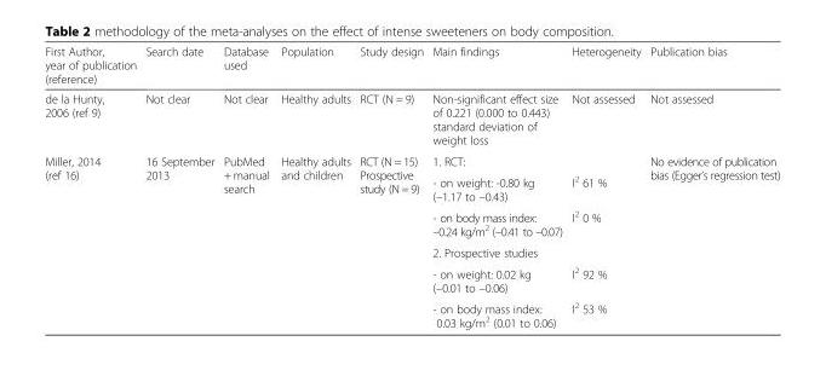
<table><thead><tr><td>First Author, year of publication (reference)</td><td>Search date</td><td>Database used</td><td>Population</td><td>Study design</td><td>Main findings</td><td>Heterogeneity</td><td>Publication bias</td></tr></thead><tbody><tr><td>de la Hunty, 2006 (ref 9)</td><td>Not clear</td><td>Not clear</td><td>Healthy adults</td><td>RCT (N = 9)</td><td>Non-significant effect size of 0.221 (0.000 to 0.443) standard deviation of weight loss</td><td>Not assessed</td><td>Not assessed</td></tr><tr><td rowspan="6">Miller, 2014 (ref 16)</td><td rowspan="6">16 September 2013</td><td rowspan="6">PubMed + manual search</td><td rowspan="6">Healthy adults and children</td><td rowspan="6">RCT (N = 15) Prospective study (N = 9)</td><td>1. RCT:</td><td></td><td rowspan="6">No evidence of publication bias (Egger’s regression test)</td></tr><tr><td>- on weight: -0.80 kg (–1.17 to –0.43)</td><td>I<sup>2</sup> 61 %</td></tr><tr><td>- on body mass index: –0.24 kg/m<sup>2</sup> (–0.41 to –0.07)</td><td>I<sup>2</sup> 0 %</td></tr><tr><td>2. Prospective studies</td><td></td></tr><tr><td>- on weight: 0.02 kg (–0.01 to –0.06)</td><td>I<sup>2</sup> 92 %</td></tr><tr><td>- on body mass index: 0.03 kg/m<sup>2</sup> (0.01 to 0.06)</td><td>I<sup>2</sup> 53 %</td></tr></tbody></table>